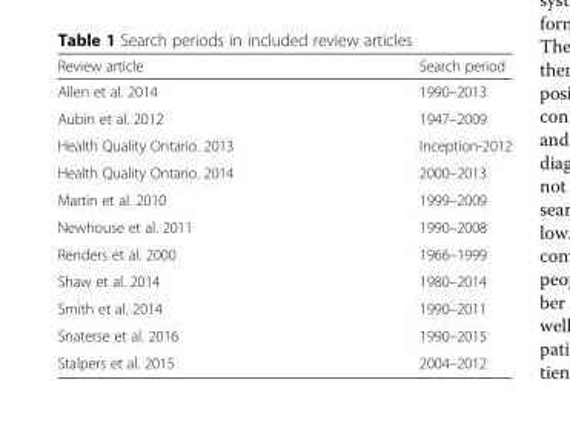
<table><thead><tr><td>Review article</td><td>Search period</td></tr></thead><tbody><tr><td>Allen et al. 2014</td><td>1990–2013</td></tr><tr><td>Aubin et al. 2012</td><td>1947–2009</td></tr><tr><td>Health Quality Ontario. 2013</td><td>Inception-2012</td></tr><tr><td>Health Quality Ontario. 2014</td><td>2000–2013</td></tr><tr><td>Martin et al. 2010</td><td>1999–2009</td></tr><tr><td>Newhouse et al. 2011</td><td>1990–2008</td></tr><tr><td>Renders et al. 2000</td><td>1966–1999</td></tr><tr><td>Shaw et al. 2014</td><td>1980–2014</td></tr><tr><td>Smith et al. 2014</td><td>1990–2011</td></tr><tr><td>Snaterse et al. 2016</td><td>1990–2015</td></tr><tr><td>Stalpers et al. 2015</td><td>2004–2012</td></tr></tbody></table>